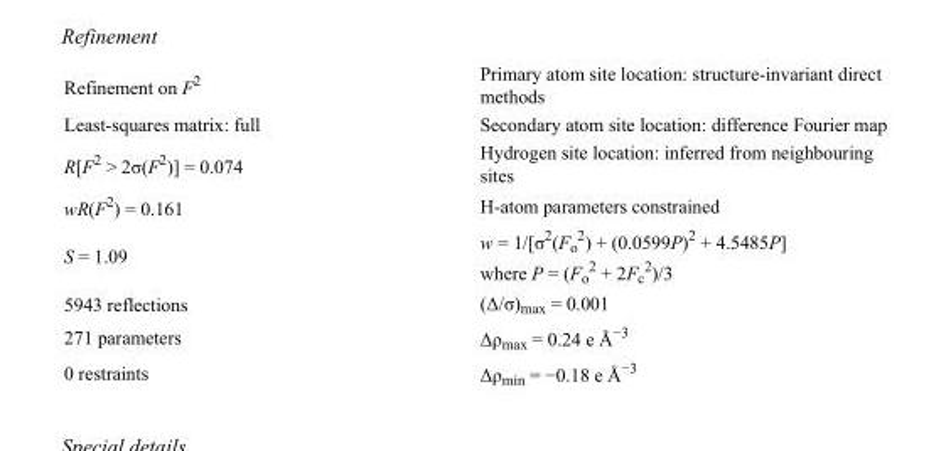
<table><tbody><tr><td>Refinement on F<sup>2</sup></td><td>Primary atom site location: structure-invariant direct methods</td></tr><tr><td>Least-squares matrix: full</td><td>Secondary atom site location: difference Fourier map</td></tr><tr><td>R[F<sup>2</sup> &gt; 2σ(F<sup>2</sup>)] = 0.074</td><td>Hydrogen site location: inferred from neighbouring sites</td></tr><tr><td>wR(F<sup>2</sup>) = 0.161</td><td>H-atom parameters constrained</td></tr><tr><td>S = 1.09</td><td>w = 1/[σ<sup>2</sup>(F<sub>o</sub> <sup>2</sup>) + (0.0599P)<sup>2</sup> + 4.5485P] where P = (F<sub>o</sub> <sup>2</sup> + 2F<sub>c</sub> <sup>2</sup>)/3</td></tr><tr><td>5943 reflections</td><td>(Δ/σ)<sub>max</sub> = 0.001</td></tr><tr><td>271 parameters</td><td>Δρ<sub>max</sub> = 0.24 e Å<sup>−3</sup></td></tr><tr><td>0 restraints</td><td>Δρ<sub>min</sub> = −0.18 e Å<sup>−3</sup></td></tr></tbody></table>